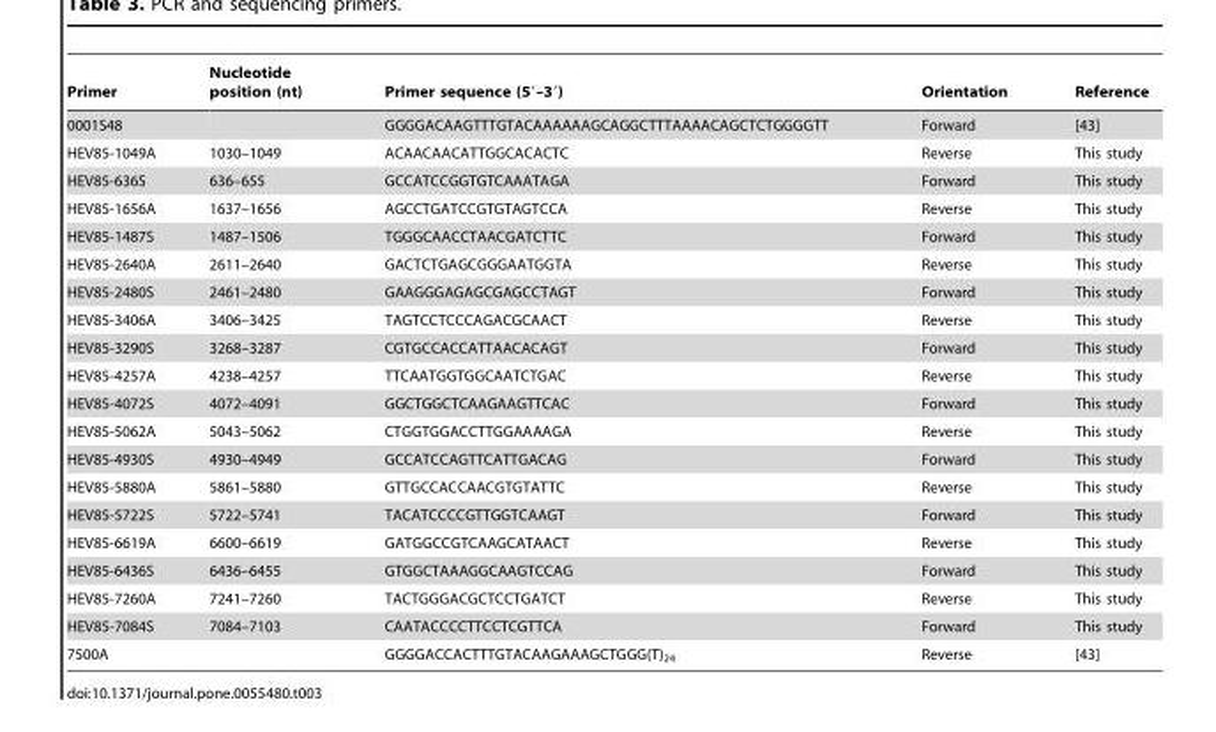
<table><thead><tr><td>Primer</td><td>Nucleotide position (nt)</td><td>Primer sequence (5′–3′)</td><td>Orientation</td><td>Reference</td></tr></thead><tbody><tr><td>0001S48</td><td></td><td>GGGGACAAGTTTGTACAAAAAAGCAGGCTTTAAAACAGCTCTGGGGTT</td><td>Forward</td><td>[43]</td></tr><tr><td>HEV85-1049A</td><td>1030–1049</td><td>ACAACAACATTGGCACACTC</td><td>Reverse</td><td>This study</td></tr><tr><td>HEV85-636S</td><td>636–655</td><td>GCCATCCGGTGTCAAATAGA</td><td>Forward</td><td>This study</td></tr><tr><td>HEV85-1656A</td><td>1637–1656</td><td>AGCCTGATCCGTGTAGTCCA</td><td>Reverse</td><td>This study</td></tr><tr><td>HEV85-1487S</td><td>1487–1506</td><td>TGGGCAACCTAACGATCTTC</td><td>Forward</td><td>This study</td></tr><tr><td>HEV85-2640A</td><td>2611–2640</td><td>GACTCTGAGCGGGAATGGTA</td><td>Reverse</td><td>This study</td></tr><tr><td>HEV85-2480S</td><td>2461–2480</td><td>GAAGGGAGAGCGAGCCTAGT</td><td>Forward</td><td>This study</td></tr><tr><td>HEV85-3406A</td><td>3406–3425</td><td>TAGTCCTCCCAGACGCAACT</td><td>Reverse</td><td>This study</td></tr><tr><td>HEV85-3290S</td><td>3268–3287</td><td>CGTGCCACCATTAACACAGT</td><td>Forward</td><td>This study</td></tr><tr><td>HEV85-4257A</td><td>4238–4257</td><td>TTCAATGGTGGCAATCTGAC</td><td>Reverse</td><td>This study</td></tr><tr><td>HEV85-4072S</td><td>4072–4091</td><td>GGCTGGCTCAAGAAGTTCAC</td><td>Forward</td><td>This study</td></tr><tr><td>HEV85-5062A</td><td>5043–5062</td><td>CTGGTGGACCTTGGAAAAGA</td><td>Reverse</td><td>This study</td></tr><tr><td>HEV85-4930S</td><td>4930–4949</td><td>GCCATCCAGTTCATTGACAG</td><td>Forward</td><td>This study</td></tr><tr><td>HEV85-5880A</td><td>5861–5880</td><td>GTTGCCACCAACGTGTATTC</td><td>Reverse</td><td>This study</td></tr><tr><td>HEV85-5722S</td><td>5722–5741</td><td>TACATCCCCGTTGGTCAAGT</td><td>Forward</td><td>This study</td></tr><tr><td>HEV85-6619A</td><td>6600–6619</td><td>GATGGCCGTCAAGCATAACT</td><td>Reverse</td><td>This study</td></tr><tr><td>HEV85-6436S</td><td>6436–6455</td><td>GTGGCTAAAGGCAAGTCCAG</td><td>Forward</td><td>This study</td></tr><tr><td>HEV85-7260A</td><td>7241–7260</td><td>TACTGGGACGCTCCTGATCT</td><td>Reverse</td><td>This study</td></tr><tr><td>HEV85-7084S</td><td>7084–7103</td><td>CAATACCCCTTCCTCGTTCA</td><td>Forward</td><td>This study</td></tr><tr><td>7500A</td><td></td><td>GGGGACCACTTTGTACAAGAAAGCTGGG(T)<sub>24</sub></td><td>Reverse</td><td>[43]</td></tr></tbody></table>